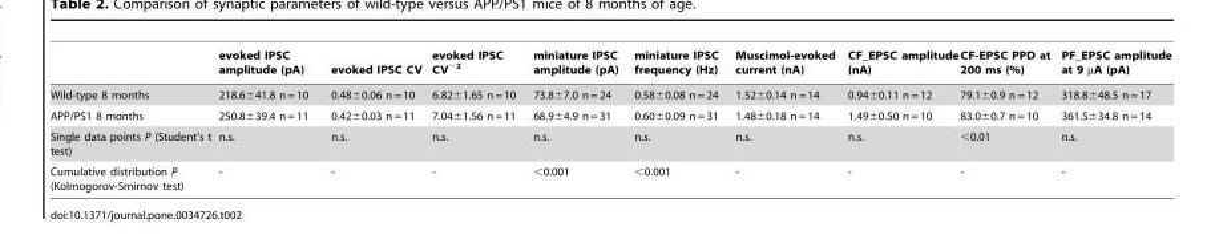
<table><thead><tr><td></td><td>evoked IPSC amplitude (pA)</td><td>evoked IPSC CV</td><td>evoked IPSC CV<sup>−2</sup></td><td>miniature IPSC amplitude (pA)</td><td>miniature IPSC frequency (Hz)</td><td>Muscimol-evoked current (nA)</td><td>CF_EPSC amplitude (nA)</td><td>CF-EPSC PPD at 200 ms (%)</td><td>PF_EPSC amplitude at 9 µA (pA)</td></tr></thead><tbody><tr><td>Wild-type 8 months</td><td>218.6±41.8 n = 10</td><td>0.48±0.06 n = 10</td><td>6.82±1.65 n = 10</td><td>73.8±7.0 n = 24</td><td>0.58±0.08 n = 24</td><td>1.52±0.14 n = 14</td><td>0.94±0.11 n = 12</td><td>79.1±0.9 n = 12</td><td>318.8±48.5 n = 17</td></tr><tr><td>APP/PS1 8 months</td><td>250.8±39.4 n = 11</td><td>0.42±0.03 n = 11</td><td>7.04±1.56 n = 11</td><td>68.9±4.9 n = 31</td><td>0.60±0.09 n = 31</td><td>1.48±0.18 n = 14</td><td>1.49±0.50 n = 10</td><td>83.0±0.7 n = 10</td><td>361.5±34.8 n = 14</td></tr><tr><td>Single data points P (Student’s t test)</td><td>n.s.</td><td>n.s.</td><td>n.s.</td><td>n.s.</td><td>n.s.</td><td>n.s.</td><td>n.s.</td><td>&lt;0.01</td><td>n.s.</td></tr><tr><td>Cumulative distribution P (Kolmogorov-Smirnov test)</td><td>-</td><td>-</td><td>-</td><td>&lt;0.001</td><td>&lt;0.001</td><td>-</td><td>-</td><td>-</td><td>-</td></tr></tbody></table>